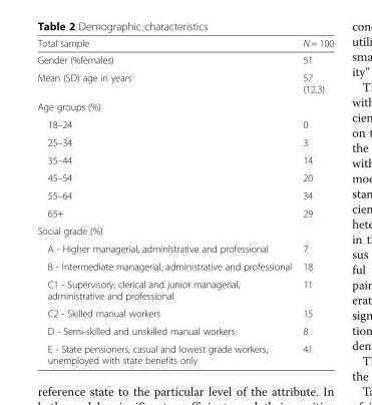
<table><thead><tr><td>Total sample</td><td>N = 100</td></tr></thead><tbody><tr><td>Gender (%females)</td><td>51</td></tr><tr><td>Mean (SD) age in years</td><td>57 (12.3)</td></tr><tr><td colspan="2">Age groups (%)</td></tr><tr><td>18–24</td><td>0</td></tr><tr><td>25–34</td><td>3</td></tr><tr><td>35–44</td><td>14</td></tr><tr><td>45–54</td><td>20</td></tr><tr><td>55–64</td><td>34</td></tr><tr><td>65+</td><td>29</td></tr><tr><td colspan="2">Social grade (%)</td></tr><tr><td>A - Higher managerial, administrative and professional</td><td>7</td></tr><tr><td>B - Intermediate managerial, administrative and professional</td><td>18</td></tr><tr><td>C1 - Supervisory, clerical and junior managerial, administrative and professional</td><td>11</td></tr><tr><td>C2 - Skilled manual workers</td><td>15</td></tr><tr><td>D - Semi-skilled and unskilled manual workers</td><td>8</td></tr><tr><td>E - State pensioners, casual and lowest grade workers, unemployed with state benefits only</td><td>41</td></tr></tbody></table>